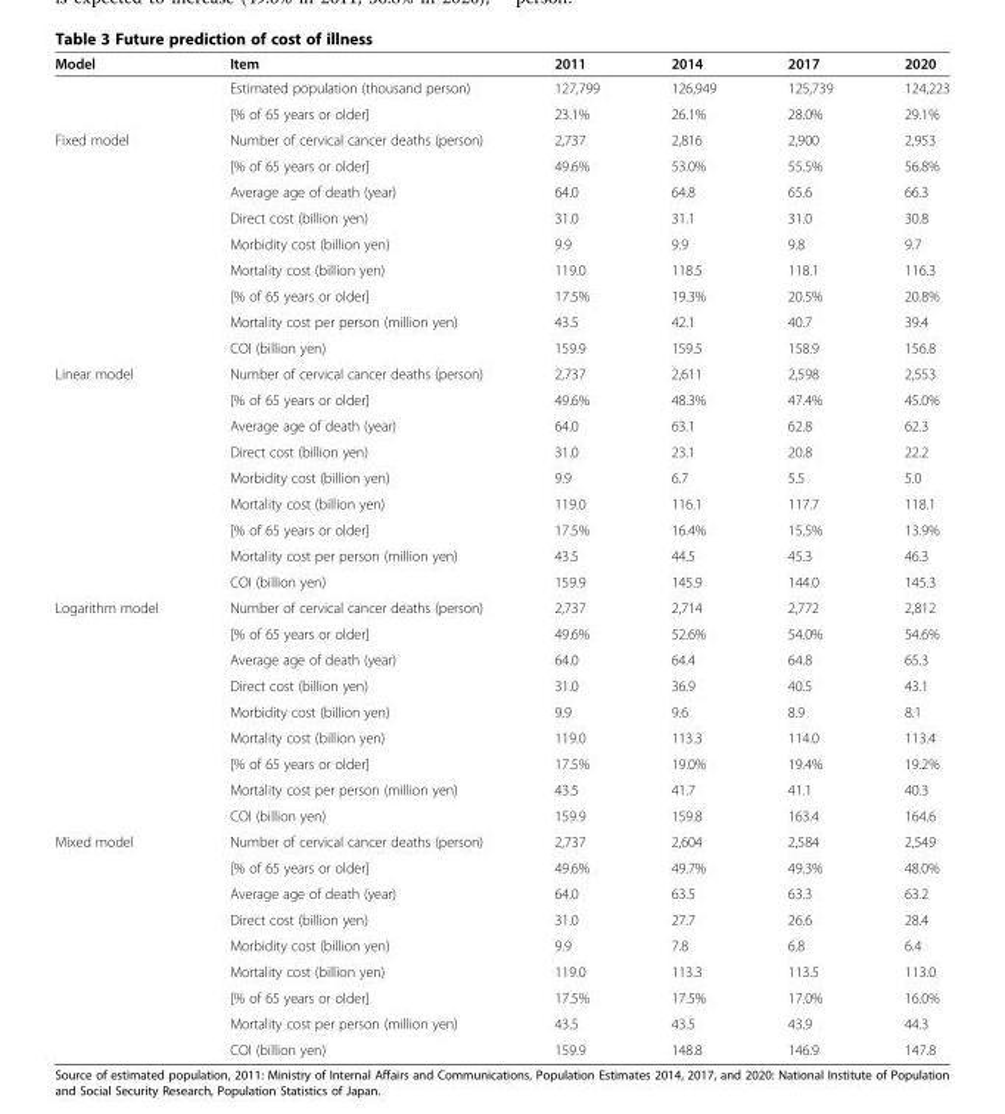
<table><thead><tr><td>Model</td><td>Item</td><td>2011</td><td>2014</td><td>2017</td><td>2020</td></tr></thead><tbody><tr><td rowspan="2"></td><td>Estimated population (thousand person)</td><td>127,799</td><td>126,949</td><td>125,739</td><td>124,223</td></tr><tr><td>[% of 65 years or older]</td><td>23.1%</td><td>26.1%</td><td>28.0%</td><td>29.1%</td></tr><tr><td rowspan="9">Fixed model</td><td>Number of cervical cancer deaths (person)</td><td>2,737</td><td>2,816</td><td>2,900</td><td>2,953</td></tr><tr><td>[% of 65 years or older]</td><td>49.6%</td><td>53.0%</td><td>55.5%</td><td>56.8%</td></tr><tr><td>Average age of death (year)</td><td>64.0</td><td>64.8</td><td>65.6</td><td>66.3</td></tr><tr><td>Direct cost (billion yen)</td><td>31.0</td><td>31.1</td><td>31.0</td><td>30.8</td></tr><tr><td>Morbidity cost (billion yen)</td><td>9.9</td><td>9.9</td><td>9.8</td><td>9.7</td></tr><tr><td>Mortality cost (billion yen)</td><td>119.0</td><td>118.5</td><td>118.1</td><td>116.3</td></tr><tr><td>[% of 65 years or older]</td><td>17.5%</td><td>19.3%</td><td>20.5%</td><td>20.8%</td></tr><tr><td>Mortality cost per person (million yen)</td><td>43.5</td><td>42.1</td><td>40.7</td><td>39.4</td></tr><tr><td>COI (billion yen)</td><td>159.9</td><td>159.5</td><td>158.9</td><td>156.8</td></tr><tr><td rowspan="9">Linear model</td><td>Number of cervical cancer deaths (person)</td><td>2,737</td><td>2,611</td><td>2,598</td><td>2,553</td></tr><tr><td>[% of 65 years or older]</td><td>49.6%</td><td>48.3%</td><td>47.4%</td><td>45.0%</td></tr><tr><td>Average age of death (year)</td><td>64.0</td><td>63.1</td><td>62.8</td><td>62.3</td></tr><tr><td>Direct cost (billion yen)</td><td>31.0</td><td>23.1</td><td>20.8</td><td>22.2</td></tr><tr><td>Morbidity cost (billion yen)</td><td>9.9</td><td>6.7</td><td>5.5</td><td>5.0</td></tr><tr><td>Mortality cost (billion yen)</td><td>119.0</td><td>116.1</td><td>117.7</td><td>118.1</td></tr><tr><td>[% of 65 years or older]</td><td>17.5%</td><td>16.4%</td><td>15.5%</td><td>13.9%</td></tr><tr><td>Mortality cost per person (million yen)</td><td>43.5</td><td>44.5</td><td>45.3</td><td>46.3</td></tr><tr><td>COI (billion yen)</td><td>159.9</td><td>145.9</td><td>144.0</td><td>145.3</td></tr><tr><td rowspan="9">Logarithm model</td><td>Number of cervical cancer deaths (person)</td><td>2,737</td><td>2,714</td><td>2,772</td><td>2,812</td></tr><tr><td>[% of 65 years or older]</td><td>49.6%</td><td>52.6%</td><td>54.0%</td><td>54.6%</td></tr><tr><td>Average age of death (year)</td><td>64.0</td><td>64.4</td><td>64.8</td><td>65.3</td></tr><tr><td>Direct cost (billion yen)</td><td>31.0</td><td>36.9</td><td>40.5</td><td>43.1</td></tr><tr><td>Morbidity cost (billion yen)</td><td>9.9</td><td>9.6</td><td>8.9</td><td>8.1</td></tr><tr><td>Mortality cost (billion yen)</td><td>119.0</td><td>113.3</td><td>114.0</td><td>113.4</td></tr><tr><td>[% of 65 years or older]</td><td>17.5%</td><td>19.0%</td><td>19.4%</td><td>19.2%</td></tr><tr><td>Mortality cost per person (million yen)</td><td>43.5</td><td>41.7</td><td>41.1</td><td>40.3</td></tr><tr><td>COI (billion yen)</td><td>159.9</td><td>159.8</td><td>163.4</td><td>164.6</td></tr><tr><td rowspan="9">Mixed model</td><td>Number of cervical cancer deaths (person)</td><td>2,737</td><td>2,604</td><td>2,584</td><td>2,549</td></tr><tr><td>[% of 65 years or older]</td><td>49.6%</td><td>49.7%</td><td>49.3%</td><td>48.0%</td></tr><tr><td>Average age of death (year)</td><td>64.0</td><td>63.5</td><td>63.3</td><td>63.2</td></tr><tr><td>Direct cost (billion yen)</td><td>31.0</td><td>27.7</td><td>26.6</td><td>28.4</td></tr><tr><td>Morbidity cost (billion yen)</td><td>9.9</td><td>7.8</td><td>6.8</td><td>6.4</td></tr><tr><td>Mortality cost (billion yen)</td><td>119.0</td><td>113.3</td><td>113.5</td><td>113.0</td></tr><tr><td>[% of 65 years or older]</td><td>17.5%</td><td>17.5%</td><td>17.0%</td><td>16.0%</td></tr><tr><td>Mortality cost per person (million yen)</td><td>43.5</td><td>43.5</td><td>43.9</td><td>44.3</td></tr><tr><td>COI (billion yen)</td><td>159.9</td><td>148.8</td><td>146.9</td><td>147.8</td></tr></tbody></table>